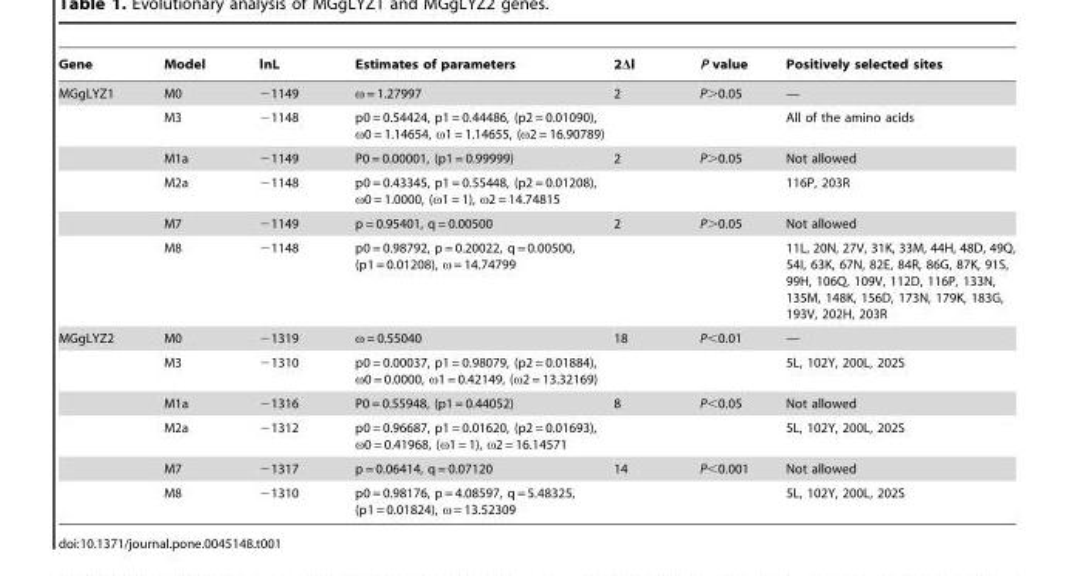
<table><thead><tr><td>Gene</td><td>Model</td><td>lnL</td><td>Estimates of parameters</td><td>2Δl</td><td>P value</td><td>Positively selected sites</td></tr></thead><tbody><tr><td rowspan="6">MGgLYZ1</td><td>M0</td><td>−1149</td><td>ω = 1.27997</td><td>2</td><td>P&gt;0.05</td><td>—</td></tr><tr><td>M3</td><td>−1148</td><td>p0 = 0.54424, p1 = 0.44486, (p2 = 0.01090), ω0 = 1.14654, ω1 = 1.14655, (ω2 = 16.90789)</td><td></td><td></td><td>All of the amino acids</td></tr><tr><td>M1a</td><td>−1149</td><td>P0 = 0.00001, (p1 = 0.99999)</td><td>2</td><td>P&gt;0.05</td><td>Not allowed</td></tr><tr><td>M2a</td><td>−1148</td><td>p0 = 0.43345, p1 = 0.55448, (p2 = 0.01208), ω0 = 1.0000, (ω1 = 1), ω2 = 14.74815</td><td></td><td></td><td>116P, 203R</td></tr><tr><td>M7</td><td>−1149</td><td>p = 0.95401, q = 0.00500</td><td>2</td><td>P&gt;0.05</td><td>Not allowed</td></tr><tr><td>M8</td><td>−1148</td><td>p0 = 0.98792, p = 0.20022, q = 0.00500, (p1 = 0.01208), ω = 14.74799</td><td></td><td></td><td>11L, 20N, 27V, 31K, 33M, 44H, 48D, 49Q, 54I, 63K, 67N, 82E, 84R, 86G, 87K, 91S, 99H, 106Q, 109V, 112D, 116P, 133N, 135M, 148K, 156D, 173N, 179K, 183G, 193V, 202H, 203R</td></tr><tr><td rowspan="6">MGgLYZ2</td><td>M0</td><td>−1319</td><td>ω = 0.55040</td><td>18</td><td>P&lt;0.01</td><td>—</td></tr><tr><td>M3</td><td>−1310</td><td>p0 = 0.00037, p1 = 0.98079, (p2 = 0.01884), ω0 = 0.0000, ω1 = 0.42149, (ω2 = 13.32169)</td><td></td><td></td><td>5L, 102Y, 200L, 202S</td></tr><tr><td>M1a</td><td>−1316</td><td>P0 = 0.55948, (p1 = 0.44052)</td><td>8</td><td>P&lt;0.05</td><td>Not allowed</td></tr><tr><td>M2a</td><td>−1312</td><td>p0 = 0.96687, p1 = 0.01620, (p2 = 0.01693), ω0 = 0.41968, (ω1 = 1), ω2 = 16.14571</td><td></td><td></td><td>5L, 102Y, 200L, 202S</td></tr><tr><td>M7</td><td>−1317</td><td>p = 0.06414, q = 0.07120</td><td>14</td><td>P&lt;0.001</td><td>Not allowed</td></tr><tr><td>M8</td><td>−1310</td><td>p0 = 0.98176, p = 4.08597, q = 5.48325, (p1 = 0.01824), ω = 13.52309</td><td></td><td></td><td>5L, 102Y, 200L, 202S</td></tr></tbody></table>